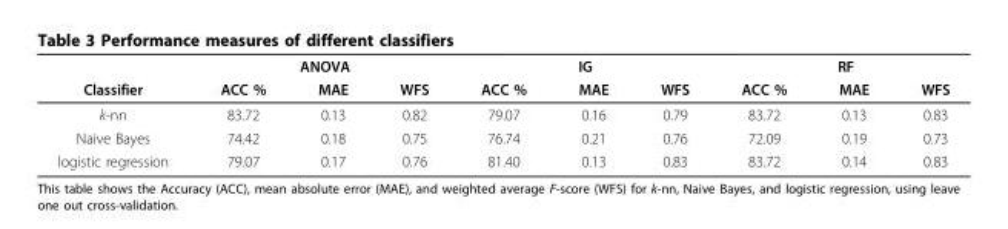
<table><thead><tr><td rowspan="2">Classifier</td><td colspan="3">ANOVA</td><td colspan="3">IG</td><td colspan="3">RF</td></tr><tr><td>ACC %</td><td>MAE</td><td>WFS</td><td>ACC %</td><td>MAE</td><td>WFS</td><td>ACC %</td><td>MAE</td><td>WFS</td></tr></thead><tbody><tr><td>k-nn</td><td>83.72</td><td>0.13</td><td>0.82</td><td>79.07</td><td>0.16</td><td>0.79</td><td>83.72</td><td>0.13</td><td>0.83</td></tr><tr><td>Naive Bayes</td><td>74.42</td><td>0.18</td><td>0.75</td><td>76.74</td><td>0.21</td><td>0.76</td><td>72.09</td><td>0.19</td><td>0.73</td></tr><tr><td>logistic regression</td><td>79.07</td><td>0.17</td><td>0.76</td><td>81.40</td><td>0.13</td><td>0.83</td><td>83.72</td><td>0.14</td><td>0.83</td></tr></tbody></table>